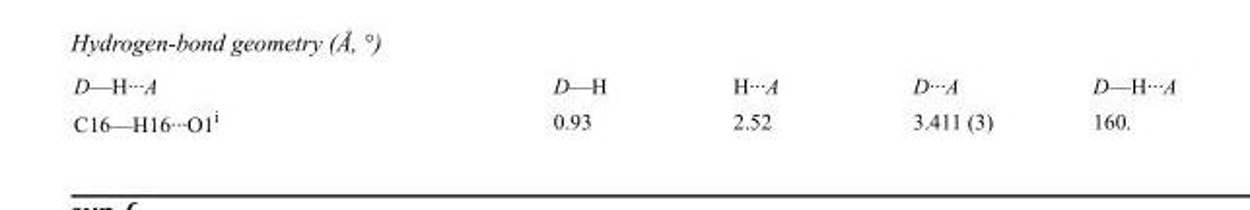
<table><tbody><tr><td>D—H···A</td><td>D—H</td><td>H···A</td><td>D···A</td><td>D—H···A</td></tr><tr><td>C16—H16···O1<sup>i</sup></td><td>0.93</td><td>2.52</td><td>3.411 (3)</td><td>160.</td></tr></tbody></table>